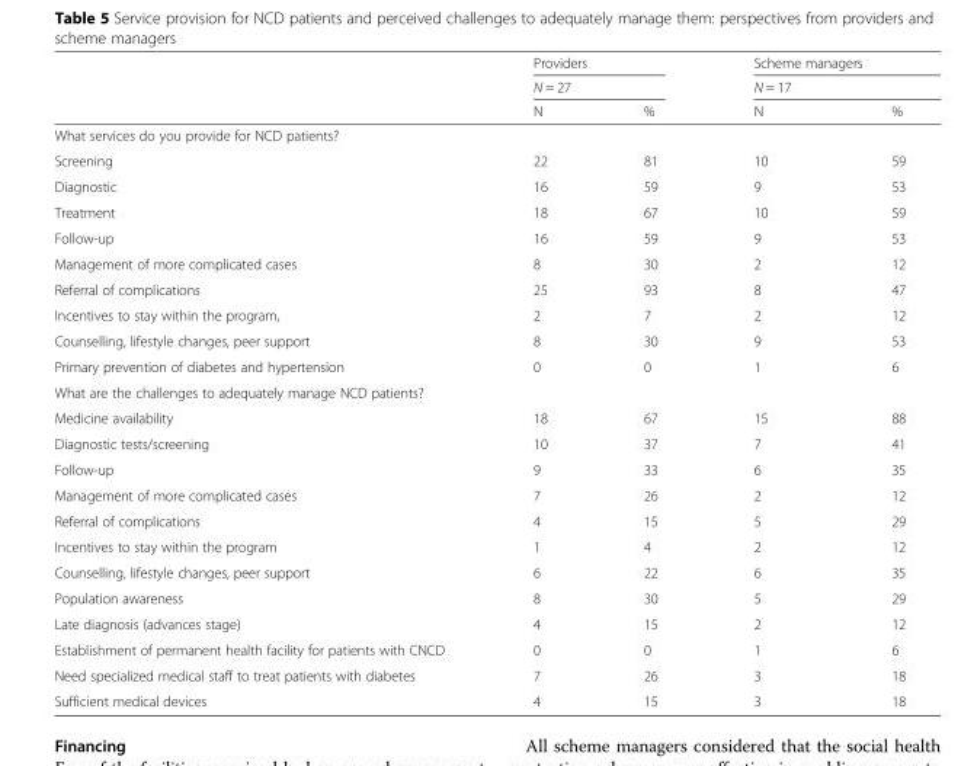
<table><thead><tr><td rowspan="3"></td><td rowspan="2" colspan="2">Providers N = 27</td><td rowspan="2" colspan="2">Scheme managers N = 17</td></tr><tr></tr><tr><td>N</td><td>%</td><td>N</td><td>%</td></tr></thead><tbody><tr><td colspan="5">What services do you provide for NCD patients?</td></tr><tr><td>Screening</td><td>22</td><td>81</td><td>10</td><td>59</td></tr><tr><td>Diagnostic</td><td>16</td><td>59</td><td>9</td><td>53</td></tr><tr><td>Treatment</td><td>18</td><td>67</td><td>10</td><td>59</td></tr><tr><td>Follow-up</td><td>16</td><td>59</td><td>9</td><td>53</td></tr><tr><td>Management of more complicated cases</td><td>8</td><td>30</td><td>2</td><td>12</td></tr><tr><td>Referral of complications</td><td>25</td><td>93</td><td>8</td><td>47</td></tr><tr><td>Incentives to stay within the program,</td><td>2</td><td>7</td><td>2</td><td>12</td></tr><tr><td>Counselling, lifestyle changes, peer support</td><td>8</td><td>30</td><td>9</td><td>53</td></tr><tr><td>Primary prevention of diabetes and hypertension</td><td>0</td><td>0</td><td>1</td><td>6</td></tr><tr><td colspan="5">What are the challenges to adequately manage NCD patients?</td></tr><tr><td>Medicine availability</td><td>18</td><td>67</td><td>15</td><td>88</td></tr><tr><td>Diagnostic tests/screening</td><td>10</td><td>37</td><td>7</td><td>41</td></tr><tr><td>Follow-up</td><td>9</td><td>33</td><td>6</td><td>35</td></tr><tr><td>Management of more complicated cases</td><td>7</td><td>26</td><td>2</td><td>12</td></tr><tr><td>Referral of complications</td><td>4</td><td>15</td><td>5</td><td>29</td></tr><tr><td>Incentives to stay within the program</td><td>1</td><td>4</td><td>2</td><td>12</td></tr><tr><td>Counselling, lifestyle changes, peer support</td><td>6</td><td>22</td><td>6</td><td>35</td></tr><tr><td>Population awareness</td><td>8</td><td>30</td><td>5</td><td>29</td></tr><tr><td>Late diagnosis (advances stage)</td><td>4</td><td>15</td><td>2</td><td>12</td></tr><tr><td>Establishment of permanent health facility for patients with CNCD</td><td>0</td><td>0</td><td>1</td><td>6</td></tr><tr><td>Need specialized medical staff to treat patients with diabetes</td><td>7</td><td>26</td><td>3</td><td>18</td></tr><tr><td>Sufficient medical devices</td><td>4</td><td>15</td><td>3</td><td>18</td></tr></tbody></table>